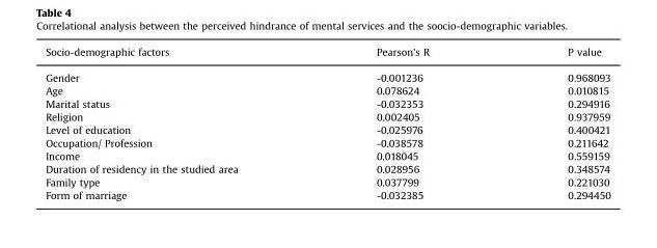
<table><thead><tr><td>Socio-demographic factors</td><td>Pearson&#x27;s R</td><td>P value</td></tr></thead><tbody><tr><td>Gender</td><td>-0.001236</td><td>0.968093</td></tr><tr><td>Age</td><td>0.078624</td><td>0.010815</td></tr><tr><td>Marital status</td><td>-0.032353</td><td>0.294916</td></tr><tr><td>Religion</td><td>0.002405</td><td>0.937959</td></tr><tr><td>Level of education</td><td>-0.025976</td><td>0.400421</td></tr><tr><td>Occupation/ Profession</td><td>-0.038578</td><td>0.211642</td></tr><tr><td>Income</td><td>0.018045</td><td>0.559159</td></tr><tr><td>Duration of residency in the studied area</td><td>0.028956</td><td>0.348574</td></tr><tr><td>Family type</td><td>0.037799</td><td>0.221030</td></tr><tr><td>Form of marriage</td><td>-0.032385</td><td>0.294450</td></tr></tbody></table>